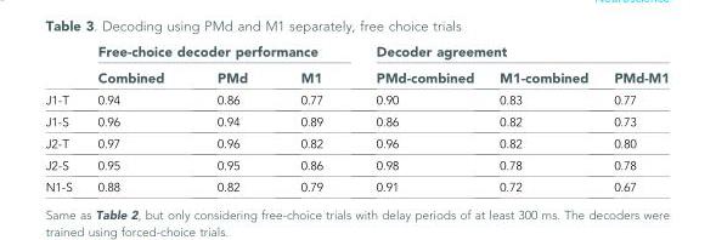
<table><thead><tr><td rowspan="2"></td><td colspan="3">Free-choice decoder performance</td><td colspan="3">Decoder agreement</td></tr><tr><td>Combined</td><td>PMd</td><td>M1</td><td>PMd-combined</td><td>M1-combined</td><td>PMd-M1</td></tr></thead><tbody><tr><td>J1-T</td><td>0.94</td><td>0.86</td><td>0.77</td><td>0.90</td><td>0.83</td><td>0.77</td></tr><tr><td>J1-S</td><td>0.96</td><td>0.94</td><td>0.89</td><td>0.86</td><td>0.82</td><td>0.73</td></tr><tr><td>J2-T</td><td>0.97</td><td>0.96</td><td>0.82</td><td>0.96</td><td>0.82</td><td>0.80</td></tr><tr><td>J2-S</td><td>0.95</td><td>0.95</td><td>0.86</td><td>0.98</td><td>0.78</td><td>0.78</td></tr><tr><td>N1-S</td><td>0.88</td><td>0.82</td><td>0.79</td><td>0.91</td><td>0.72</td><td>0.67</td></tr></tbody></table>